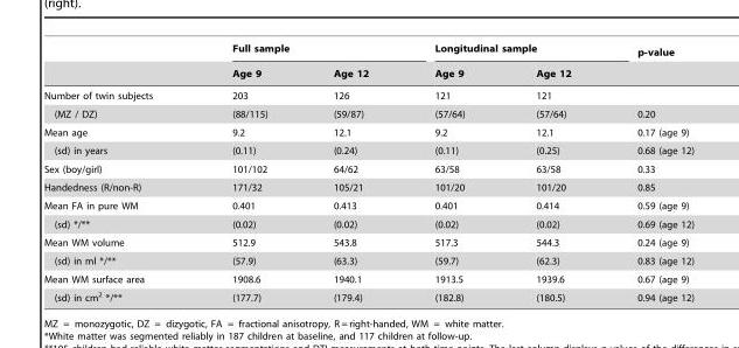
<table><thead><tr><td rowspan="2"></td><td colspan="2">Full sample</td><td colspan="2">Longitudinal sample</td><td rowspan="2">p-value</td></tr><tr><td>Age 9</td><td>Age 12</td><td>Age 9</td><td>Age 12</td></tr></thead><tbody><tr><td>Number of twin subjects</td><td>203</td><td>126</td><td>121</td><td>121</td><td></td></tr><tr><td>(MZ / DZ)</td><td>(88/115)</td><td>(59/87)</td><td>(57/64)</td><td>(57/64)</td><td>0.20</td></tr><tr><td>Mean age</td><td>9.2</td><td>12.1</td><td>9.2</td><td>12.1</td><td>0.17 (age 9)</td></tr><tr><td>(sd) in years</td><td>(0.11)</td><td>(0.24)</td><td>(0.11)</td><td>(0.25)</td><td>0.68 (age 12)</td></tr><tr><td>Sex (boy/girl)</td><td>101/102</td><td>64/62</td><td>63/58</td><td>63/58</td><td>0.33</td></tr><tr><td>Handedness (R/non-R)</td><td>171/32</td><td>105/21</td><td>101/20</td><td>101/20</td><td>0.85</td></tr><tr><td>Mean FA in pure WM</td><td>0.401</td><td>0.413</td><td>0.401</td><td>0.414</td><td>0.59 (age 9)</td></tr><tr><td>(sd) */**</td><td>(0.02)</td><td>(0.02)</td><td>(0.02)</td><td>(0.02)</td><td>0.69 (age 12)</td></tr><tr><td>Mean WM volume</td><td>512.9</td><td>543.8</td><td>517.3</td><td>544.3</td><td>0.24 (age 9)</td></tr><tr><td>(sd) in ml */**</td><td>(57.9)</td><td>(63.3)</td><td>(59.7)</td><td>(62.3)</td><td>0.83 (age 12)</td></tr><tr><td>Mean WM surface area</td><td>1908.6</td><td>1940.1</td><td>1913.5</td><td>1939.6</td><td>0.67 (age 9)</td></tr><tr><td>(sd) in cm<sup>2</sup> */**</td><td>(177.7)</td><td>(179.4)</td><td>(182.8)</td><td>(180.5)</td><td>0.94 (age 12)</td></tr></tbody></table>